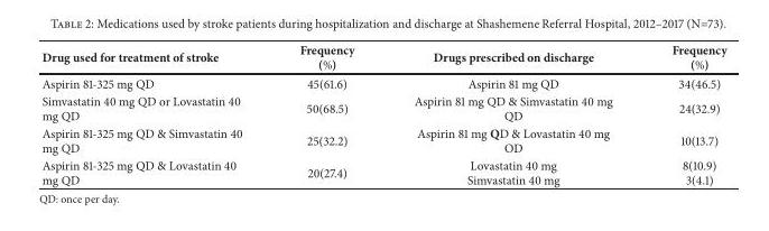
<table><thead><tr><td>Drug used for treatment of stroke</td><td>Frequency (%)</td><td>Drugs prescribed on discharge</td><td>Frequency (%)</td></tr></thead><tbody><tr><td>Aspirin 81-325 mg QD</td><td>45(61.6)</td><td>Aspirin 81 mg QD</td><td>34(46.5)</td></tr><tr><td>Simvastatin 40 mg QD or Lovastatin 40 mg QD</td><td>50(68.5)</td><td>Aspirin 81 mg QD &amp; Simvastatin 40 mg QD</td><td>24(32.9)</td></tr><tr><td>Aspirin 81-325 mg QD &amp; Simvastatin 40 mg QD</td><td>25(32.2)</td><td>Aspirin 81 mg QD &amp; Lovastatin 40 mg OD</td><td>10(13.7)</td></tr><tr><td>Aspirin 81-325 mg QD &amp; Lovastatin 40 mg QD</td><td>20(27.4)</td><td>Lovastatin 40 mg Simvastatin 40 mg</td><td>8(10.9) 3(4.1)</td></tr></tbody></table>